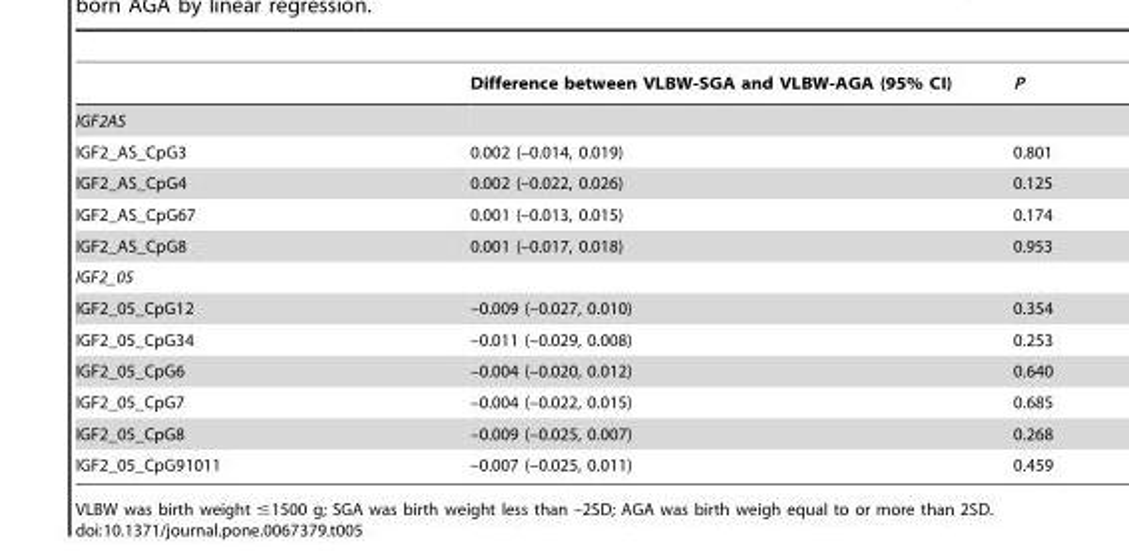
<table><thead><tr><td></td><td>Difference between VLBW-SGA and VLBW-AGA (95% CI)</td><td>P</td></tr></thead><tbody><tr><td colspan="3">IGF2AS</td></tr><tr><td>IGF2_AS_CpG3</td><td>0.002 (–0.014, 0.019)</td><td>0.801</td></tr><tr><td>IGF2_AS_CpG4</td><td>0.002 (–0.022, 0.026)</td><td>0.125</td></tr><tr><td>IGF2_AS_CpG67</td><td>0.001 (–0.013, 0.015)</td><td>0.174</td></tr><tr><td>IGF2_AS_CpG8</td><td>0.001 (–0.017, 0.018)</td><td>0.953</td></tr><tr><td colspan="3">IGF2_05</td></tr><tr><td>IGF2_05_CpG12</td><td>–0.009 (–0.027, 0.010)</td><td>0.354</td></tr><tr><td>IGF2_05_CpG34</td><td>–0.011 (–0.029, 0.008)</td><td>0.253</td></tr><tr><td>IGF2_05_CpG6</td><td>–0.004 (–0.020, 0.012)</td><td>0.640</td></tr><tr><td>IGF2_05_CpG7</td><td>–0.004 (–0.022, 0.015)</td><td>0.685</td></tr><tr><td>IGF2_05_CpG8</td><td>–0.009 (–0.025, 0.007)</td><td>0.268</td></tr><tr><td>IGF2_05_CpG91011</td><td>–0.007 (–0.025, 0.011)</td><td>0.459</td></tr></tbody></table>